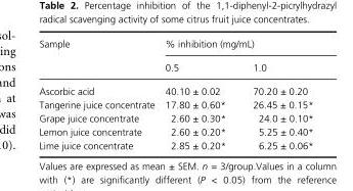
<table><thead><tr><td rowspan="2">Sample</td><td colspan="2">% inhibition (mg/mL)</td></tr><tr><td>0.5</td><td>1.0</td></tr></thead><tbody><tr><td>Ascorbic acid</td><td>40.10 ± 0.02</td><td>70.20 ± 0.20</td></tr><tr><td>Tangerine juice concentrate</td><td>17.80 ± 0.60*</td><td>26.45 ± 0.15*</td></tr><tr><td>Grape juice concentrate</td><td>2.60 ± 0.30*</td><td>24.0 ± 0.10*</td></tr><tr><td>Lemon juice concentrate</td><td>2.60 ± 0.20*</td><td>5.25 ± 0.40*</td></tr><tr><td>Lime juice concentrate</td><td>2.85 ± 0.20*</td><td>6.25 ± 0.06*</td></tr></tbody></table>